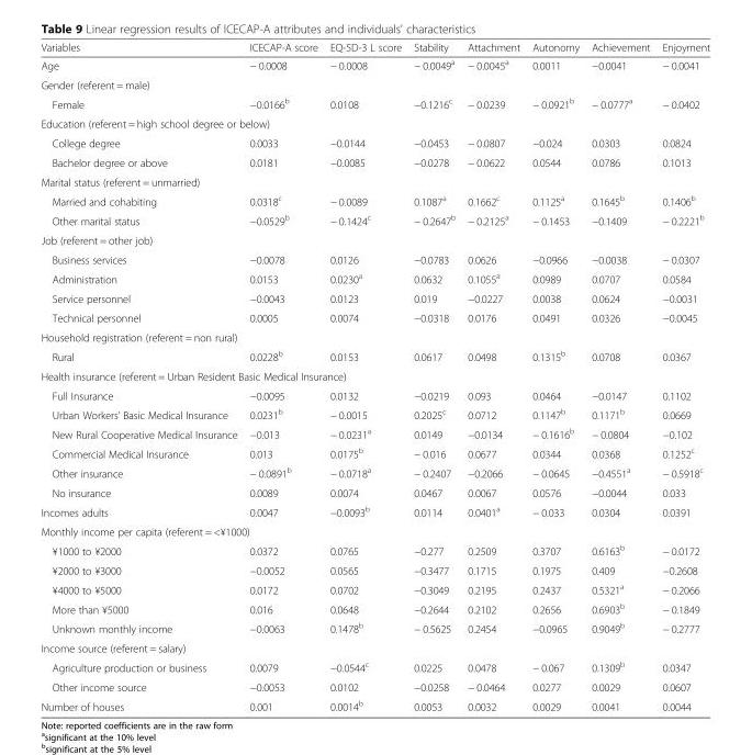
<table><thead><tr><td>Variables</td><td>ICECAP-A score</td><td>EQ-5D-3 L score</td><td>Stability</td><td>Attachment</td><td>Autonomy</td><td>Achievement</td><td>Enjoyment</td></tr></thead><tbody><tr><td>Age</td><td>− 0.0008</td><td>− 0.0008</td><td>− 0.0049<sup>a</sup></td><td>− 0.0045<sup>a</sup></td><td>0.0011</td><td>−0.0041</td><td>− 0.0041</td></tr><tr><td colspan="8">Gender (referent = male)</td></tr><tr><td>Female</td><td>−0.0166<sup>b</sup></td><td>0.0108</td><td>−0.1216<sup>c</sup></td><td>− 0.0239</td><td>− 0.0921<sup>b</sup></td><td>− 0.0777<sup>a</sup></td><td>− 0.0402</td></tr><tr><td colspan="8">Education (referent = high school degree or below)</td></tr><tr><td>College degree</td><td>0.0033</td><td>−0.0144</td><td>−0.0453</td><td>− 0.0807</td><td>−0.024</td><td>0.0303</td><td>0.0824</td></tr><tr><td>Bachelor degree or above</td><td>0.0181</td><td>−0.0085</td><td>−0.0278</td><td>− 0.0622</td><td>0.0544</td><td>0.0786</td><td>0.1013</td></tr><tr><td colspan="8">Marital status (referent = unmarried)</td></tr><tr><td>Married and cohabiting</td><td>0.0318<sup>c</sup></td><td>− 0.0089</td><td>0.1087<sup>a</sup></td><td>0.1662<sup>c</sup></td><td>0.1125<sup>a</sup></td><td>0.1645<sup>b</sup></td><td>0.1406<sup>b</sup></td></tr><tr><td>Other marital status</td><td>−0.0529<sup>b</sup></td><td>− 0.1424<sup>c</sup></td><td>− 0.2647<sup>b</sup></td><td>− 0.2125<sup>a</sup></td><td>− 0.1453</td><td>−0.1409</td><td>− 0.2221<sup>b</sup></td></tr><tr><td colspan="8">Job (referent = other job)</td></tr><tr><td>Business services</td><td>−0.0078</td><td>0.0126</td><td>−0.0783</td><td>0.0626</td><td>−0.0966</td><td>−0.0038</td><td>− 0.0307</td></tr><tr><td>Administration</td><td>0.0153</td><td>0.0230<sup>a</sup></td><td>0.0632</td><td>0.1055<sup>a</sup></td><td>0.0989</td><td>0.0707</td><td>0.0584</td></tr><tr><td>Service personnel</td><td>−0.0043</td><td>0.0123</td><td>0.019</td><td>−0.0227</td><td>0.0038</td><td>0.0624</td><td>−0.0031</td></tr><tr><td>Technical personnel</td><td>0.0005</td><td>0.0074</td><td>−0.0318</td><td>0.0176</td><td>0.0491</td><td>0.0326</td><td>−0.0045</td></tr><tr><td colspan="8">Household registration (referent = non rural)</td></tr><tr><td>Rural</td><td>0.0228<sup>b</sup></td><td>0.0153</td><td>0.0617</td><td>0.0498</td><td>0.1315<sup>b</sup></td><td>0.0708</td><td>0.0367</td></tr><tr><td colspan="8">Health insurance (referent = Urban Resident Basic Medical Insurance)</td></tr><tr><td>Full Insurance</td><td>−0.0095</td><td>0.0132</td><td>−0.0219</td><td>0.093</td><td>0.0464</td><td>−0.0147</td><td>0.1102</td></tr><tr><td>Urban Workers’ Basic Medical Insurance</td><td>0.0231<sup>b</sup></td><td>− 0.0015</td><td>0.2025<sup>c</sup></td><td>0.0712</td><td>0.1147<sup>b</sup></td><td>0.1171<sup>b</sup></td><td>0.0669</td></tr><tr><td>New Rural Cooperative Medical Insurance</td><td>−0.013</td><td>− 0.0231<sup>a</sup></td><td>0.0149</td><td>−0.0134</td><td>− 0.1616<sup>b</sup></td><td>− 0.0804</td><td>−0.102</td></tr><tr><td>Commercial Medical Insurance</td><td>0.013</td><td>0.0175<sup>b</sup></td><td>− 0.016</td><td>0.0677</td><td>0.0344</td><td>0.0368</td><td>0.1252<sup>c</sup></td></tr><tr><td>Other insurance</td><td>− 0.0891<sup>b</sup></td><td>− 0.0718<sup>a</sup></td><td>− 0.2407</td><td>−0.2066</td><td>− 0.0645</td><td>−0.4551<sup>a</sup></td><td>− 0.5918<sup>c</sup></td></tr><tr><td>No insurance</td><td>0.0089</td><td>0.0074</td><td>0.0467</td><td>0.0067</td><td>0.0576</td><td>−0.0044</td><td>0.033</td></tr><tr><td>Incomes adults</td><td>0.0047</td><td>−0.0093<sup>b</sup></td><td>0.0114</td><td>0.0401<sup>a</sup></td><td>− 0.033</td><td>0.0304</td><td>0.0391</td></tr><tr><td colspan="8">Monthly income per capita (referent = &lt;¥1000)</td></tr><tr><td>¥1000 to ¥2000</td><td>0.0372</td><td>0.0765</td><td>−0.277</td><td>0.2509</td><td>0.3707</td><td>0.6163<sup>b</sup></td><td>− 0.0172</td></tr><tr><td>¥2000 to ¥3000</td><td>−0.0052</td><td>0.0565</td><td>−0.3477</td><td>0.1715</td><td>0.1975</td><td>0.409</td><td>−0.2608</td></tr><tr><td>¥4000 to ¥5000</td><td>0.0172</td><td>0.0702</td><td>−0.3049</td><td>0.2195</td><td>0.2437</td><td>0.5321<sup>a</sup></td><td>− 0.2066</td></tr><tr><td>More than ¥5000</td><td>0.016</td><td>0.0648</td><td>−0.2644</td><td>0.2102</td><td>0.2656</td><td>0.6903<sup>b</sup></td><td>− 0.1849</td></tr><tr><td>Unknown monthly income</td><td>−0.0063</td><td>0.1478<sup>b</sup></td><td>− 0.5625</td><td>0.2454</td><td>−0.0965</td><td>0.9049<sup>b</sup></td><td>− 0.2777</td></tr><tr><td colspan="8">Income source (referent = salary)</td></tr><tr><td>Agriculture production or business</td><td>0.0079</td><td>−0.0544<sup>c</sup></td><td>0.0225</td><td>0.0478</td><td>− 0.067</td><td>0.1309<sup>b</sup></td><td>0.0347</td></tr><tr><td>Other income source</td><td>−0.0053</td><td>0.0102</td><td>−0.0258</td><td>− 0.0464</td><td>0.0277</td><td>0.0029</td><td>0.0607</td></tr><tr><td>Number of houses</td><td>0.001</td><td>0.0014<sup>b</sup></td><td>0.0053</td><td>0.0032</td><td>0.0029</td><td>0.0041</td><td>0.0044</td></tr></tbody></table>